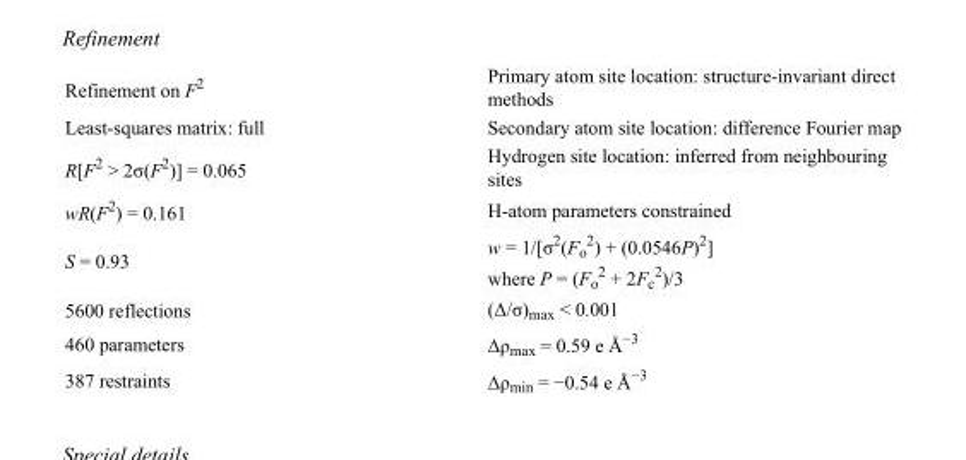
<table><tbody><tr><td>Refinement on F<sup>2</sup></td><td>Primary atom site location: structure-invariant direct methods</td></tr><tr><td>Least-squares matrix: full</td><td>Secondary atom site location: difference Fourier map</td></tr><tr><td>R[F<sup>2</sup> &gt; 2σ(F<sup>2</sup>)] = 0.065</td><td>Hydrogen site location: inferred from neighbouring sites</td></tr><tr><td>wR(F<sup>2</sup>) = 0.161</td><td>H-atom parameters constrained</td></tr><tr><td>S = 0.93</td><td>w = 1/[σ<sup>2</sup>(F<sub>o</sub> <sup>2</sup>) + (0.0546P)<sup>2</sup>] where P = (F<sub>o</sub> <sup>2</sup> + 2F<sub>c</sub> <sup>2</sup>)/3</td></tr><tr><td>5600 reflections</td><td>(Δ/σ)<sub>max</sub> &lt; 0.001</td></tr><tr><td>460 parameters</td><td>Δρ<sub>max</sub> = 0.59 e Å<sup>−3</sup></td></tr><tr><td>387 restraints</td><td>Δρ<sub>min</sub> = −0.54 e Å<sup>−3</sup></td></tr></tbody></table>